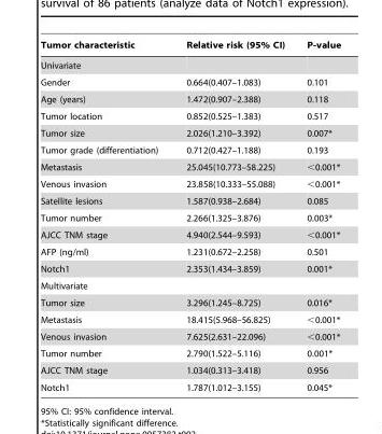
<table><thead><tr><td>Tumor characteristic</td><td>Relative risk (95% CI)</td><td>P-value</td></tr></thead><tbody><tr><td colspan="3">Univariate</td></tr><tr><td>Gender</td><td>0.664(0.407–1.083)</td><td>0.101</td></tr><tr><td>Age (years)</td><td>1.472(0.907–2.388)</td><td>0.118</td></tr><tr><td>Tumor location</td><td>0.852(0.525–1.383)</td><td>0.517</td></tr><tr><td>Tumor size</td><td>2.026(1.210–3.392)</td><td>0.007*</td></tr><tr><td>Tumor grade (differentiation)</td><td>0.712(0.427–1.188)</td><td>0.193</td></tr><tr><td>Metastasis</td><td>25.045(10.773–58.225)</td><td>&lt;0.001*</td></tr><tr><td>Venous invasion</td><td>23.858(10.333–55.088)</td><td>&lt;0.001*</td></tr><tr><td>Satellite lesions</td><td>1.587(0.938–2.684)</td><td>0.085</td></tr><tr><td>Tumor number</td><td>2.266(1.325–3.876)</td><td>0.003*</td></tr><tr><td>AJCC TNM stage</td><td>4.940(2.544–9.593)</td><td>&lt;0.001*</td></tr><tr><td>AFP (ng/ml)</td><td>1.231(0.672–2.258)</td><td>0.501</td></tr><tr><td>Notch1</td><td>2.353(1.434–3.859)</td><td>0.001*</td></tr><tr><td colspan="3">Multivariate</td></tr><tr><td>Tumor size</td><td>3.296(1.245–8.725)</td><td>0.016*</td></tr><tr><td>Metastasis</td><td>18.415(5.968–56.825)</td><td>&lt;0.001*</td></tr><tr><td>Venous invasion</td><td>7.625(2.631–22.096)</td><td>&lt;0.001*</td></tr><tr><td>Tumor number</td><td>2.790(1.522–5.116)</td><td>0.001*</td></tr><tr><td>AJCC TNM stage</td><td>1.034(0.313–3.418)</td><td>0.956</td></tr><tr><td>Notch1</td><td>1.787(1.012–3.155)</td><td>0.045*</td></tr></tbody></table>